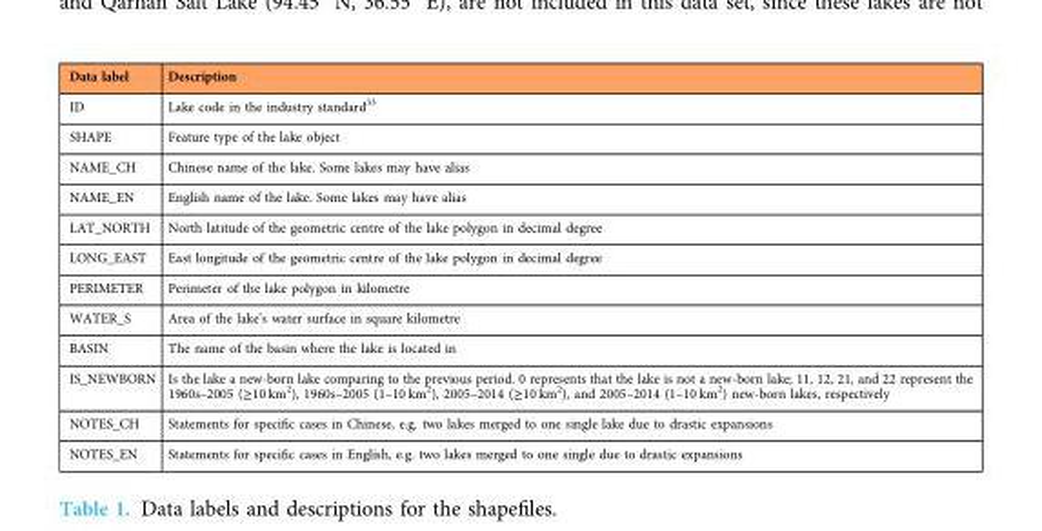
<table><thead><tr><td>Data label</td><td>Description</td></tr></thead><tbody><tr><td>ID</td><td>Lake code in the industry standard<sup>33</sup></td></tr><tr><td>SHAPE</td><td>Feature type of the lake object</td></tr><tr><td>NAME_CH</td><td>Chinese name of the lake. Some lakes may have alias</td></tr><tr><td>NAME_EN</td><td>English name of the lake. Some lakes may have alias</td></tr><tr><td>LAT_NORTH</td><td>North latitude of the geometric centre of the lake polygon in decimal degree</td></tr><tr><td>LONG_EAST</td><td>East longitude of the geometric centre of the lake polygon in decimal degree</td></tr><tr><td>PERIMETER</td><td>Perimeter of the lake polygon in kilometre</td></tr><tr><td>WATER_S</td><td>Area of the lake’s water surface in square kilometre</td></tr><tr><td>BASIN</td><td>The name of the basin where the lake is located in</td></tr><tr><td>IS_NEWBORN</td><td>Is the lake a new-born lake comparing to the previous period. 0 represents that the lake is not a new-born lake; 11, 12, 21, and 22 represent the 1960s–2005 (≥10 km<sup>2</sup>), 1960s–2005 (1–10 km<sup>2</sup>), 2005–2014 (≥10 km<sup>2</sup>), and 2005–2014 (1–10 km<sup>2</sup>) new-born lakes, respectively</td></tr><tr><td>NOTES_CH</td><td>Statements for specific cases in Chinese, e.g. two lakes merged to one single lake due to drastic expansions</td></tr><tr><td>NOTES_EN</td><td>Statements for specific cases in English, e.g. two lakes merged to one single due to drastic expansions</td></tr></tbody></table>